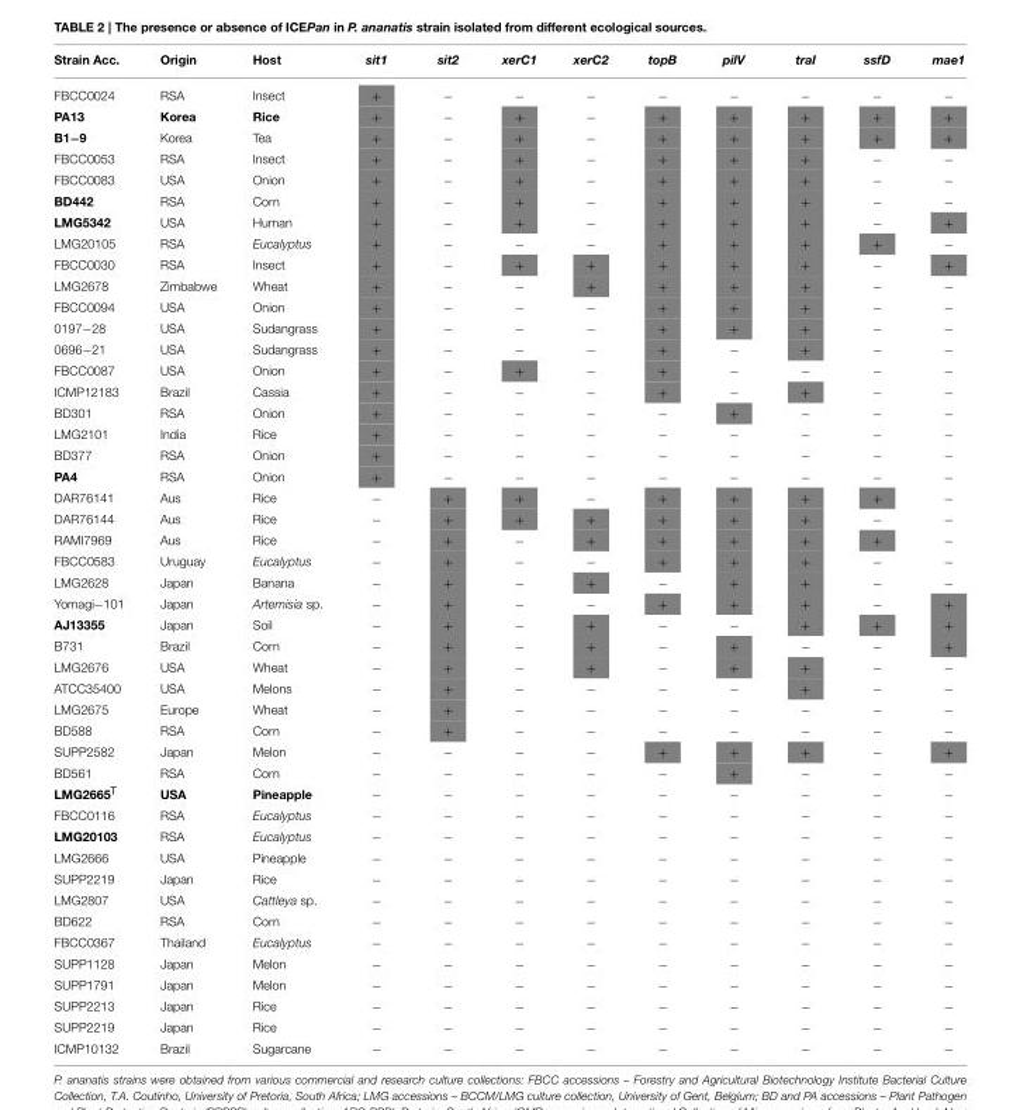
<table><thead><tr><td>Strain Acc.</td><td>Origin</td><td>Host</td><td>sit1</td><td>sit2</td><td>xerC1</td><td>xerC2</td><td>topB</td><td>pilV</td><td>traI</td><td>ssfD</td><td>mae1</td></tr></thead><tbody><tr><td>FBCC0024</td><td>RSA</td><td>Insect</td><td>+</td><td>−</td><td>−</td><td>−</td><td>−</td><td>−</td><td>−</td><td>−</td><td>−</td></tr><tr><td>PA13</td><td>Korea</td><td>Rice</td><td>+</td><td>−</td><td>+</td><td>−</td><td>+</td><td>+</td><td>+</td><td>+</td><td>+</td></tr><tr><td>B1−9</td><td>Korea</td><td>Tea</td><td>+</td><td>−</td><td>+</td><td>−</td><td>+</td><td>+</td><td>+</td><td>+</td><td>+</td></tr><tr><td>FBCC0053</td><td>RSA</td><td>Insect</td><td>+</td><td>−</td><td>+</td><td>−</td><td>+</td><td>+</td><td>+</td><td>−</td><td>−</td></tr><tr><td>FBCC0083</td><td>USA</td><td>Onion</td><td>+</td><td>−</td><td>+</td><td>−</td><td>+</td><td>+</td><td>+</td><td>−</td><td>−</td></tr><tr><td>BD442</td><td>RSA</td><td>Corn</td><td>+</td><td>−</td><td>+</td><td>−</td><td>+</td><td>+</td><td>+</td><td>−</td><td>−</td></tr><tr><td>LMG5342</td><td>USA</td><td>Human</td><td>+</td><td>−</td><td>+</td><td>−</td><td>+</td><td>+</td><td>+</td><td>−</td><td>+</td></tr><tr><td>LMG20105</td><td>RSA</td><td>Eucalyptus</td><td>+</td><td>−</td><td>−</td><td>−</td><td>+</td><td>+</td><td>+</td><td>+</td><td>−</td></tr><tr><td>FBCC0030</td><td>RSA</td><td>Insect</td><td>+</td><td>−</td><td>+</td><td>+</td><td>+</td><td>+</td><td>+</td><td>−</td><td>+</td></tr><tr><td>LMG2678</td><td>Zimbabwe</td><td>Wheat</td><td>+</td><td>−</td><td>−</td><td>+</td><td>+</td><td>+</td><td>+</td><td>−</td><td>−</td></tr><tr><td>FBCC0094</td><td>USA</td><td>Onion</td><td>+</td><td>−</td><td>−</td><td>−</td><td>+</td><td>+</td><td>+</td><td>−</td><td>−</td></tr><tr><td>0197−28</td><td>USA</td><td>Sudangrass</td><td>+</td><td>−</td><td>−</td><td>−</td><td>+</td><td>+</td><td>+</td><td>−</td><td>−</td></tr><tr><td>0696−21</td><td>USA</td><td>Sudangrass</td><td>+</td><td>−</td><td>−</td><td>−</td><td>+</td><td>−</td><td>+</td><td>−</td><td>−</td></tr><tr><td>FBCC0087</td><td>USA</td><td>Onion</td><td>+</td><td>−</td><td>+</td><td>−</td><td>+</td><td>−</td><td>−</td><td>−</td><td>−</td></tr><tr><td>ICMP12183</td><td>Brazil</td><td>Cassia</td><td>+</td><td>−</td><td>−</td><td>−</td><td>+</td><td>−</td><td>+</td><td>−</td><td>−</td></tr><tr><td>BD301</td><td>RSA</td><td>Onion</td><td>+</td><td>−</td><td>−</td><td>−</td><td>−</td><td>+</td><td>−</td><td>−</td><td>−</td></tr><tr><td>LMG2101</td><td>India</td><td>Rice</td><td>+</td><td>−</td><td>−</td><td>−</td><td>−</td><td>−</td><td>−</td><td>−</td><td>−</td></tr><tr><td>BD377</td><td>RSA</td><td>Onion</td><td>+</td><td>−</td><td>−</td><td>−</td><td>−</td><td>−</td><td>−</td><td>−</td><td>−</td></tr><tr><td>PA4</td><td>RSA</td><td>Onion</td><td>+</td><td>−</td><td>−</td><td>−</td><td>−</td><td>−</td><td>−</td><td>−</td><td>−</td></tr><tr><td>DAR76141</td><td>Aus</td><td>Rice</td><td>−</td><td>+</td><td>+</td><td>−</td><td>+</td><td>+</td><td>+</td><td>+</td><td>−</td></tr><tr><td>DAR76144</td><td>Aus</td><td>Rice</td><td>−</td><td>+</td><td>+</td><td>+</td><td>+</td><td>+</td><td>+</td><td>−</td><td>−</td></tr><tr><td>RAMI7969</td><td>Aus</td><td>Rice</td><td>−</td><td>+</td><td>−</td><td>+</td><td>+</td><td>+</td><td>+</td><td>+</td><td>−</td></tr><tr><td>FBCC0583</td><td>Uruguay</td><td>Eucalyptus</td><td>−</td><td>+</td><td>−</td><td>−</td><td>+</td><td>+</td><td>+</td><td>−</td><td>−</td></tr><tr><td>LMG2628</td><td>Japan</td><td>Banana</td><td>−</td><td>+</td><td>−</td><td>+</td><td>−</td><td>+</td><td>+</td><td>−</td><td>−</td></tr><tr><td>Yomagi−101</td><td>Japan</td><td>Artemisia sp.</td><td>−</td><td>+</td><td>−</td><td>−</td><td>+</td><td>+</td><td>+</td><td>−</td><td>+</td></tr><tr><td>AJ13355</td><td>Japan</td><td>Soil</td><td>−</td><td>+</td><td>−</td><td>+</td><td>−</td><td>−</td><td>+</td><td>+</td><td>+</td></tr><tr><td>B731</td><td>Brazil</td><td>Corn</td><td>−</td><td>+</td><td>−</td><td>+</td><td>−</td><td>+</td><td>−</td><td>−</td><td>+</td></tr><tr><td>LMG2676</td><td>USA</td><td>Wheat</td><td>−</td><td>+</td><td>−</td><td>+</td><td>−</td><td>+</td><td>+</td><td>−</td><td>−</td></tr><tr><td>ATCC35400</td><td>USA</td><td>Melons</td><td>−</td><td>+</td><td>−</td><td>−</td><td>−</td><td>−</td><td>+</td><td>−</td><td>−</td></tr><tr><td>LMG2675</td><td>Europe</td><td>Wheat</td><td>−</td><td>+</td><td>−</td><td>−</td><td>−</td><td>−</td><td>−</td><td>−</td><td>−</td></tr><tr><td>BD588</td><td>RSA</td><td>Corn</td><td>−</td><td>+</td><td>−</td><td>−</td><td>−</td><td>−</td><td>−</td><td>−</td><td>−</td></tr><tr><td>SUPP2582</td><td>Japan</td><td>Melon</td><td>−</td><td>−</td><td>−</td><td>−</td><td>+</td><td>+</td><td>+</td><td>−</td><td>+</td></tr><tr><td>BD561</td><td>RSA</td><td>Corn</td><td>−</td><td>−</td><td>−</td><td>−</td><td>−</td><td>+</td><td>−</td><td>−</td><td>−</td></tr><tr><td>LMG2665<sup>T</sup></td><td>USA</td><td>Pineapple</td><td>−</td><td>−</td><td>−</td><td>−</td><td>−</td><td>−</td><td>−</td><td>−</td><td>−</td></tr><tr><td>FBCC0116</td><td>RSA</td><td>Eucalyptus</td><td>−</td><td>−</td><td>−</td><td>−</td><td>−</td><td>−</td><td>−</td><td>−</td><td>−</td></tr><tr><td>LMG20103</td><td>RSA</td><td>Eucalyptus</td><td>−</td><td>−</td><td>−</td><td>−</td><td>−</td><td>−</td><td>−</td><td>−</td><td>−</td></tr><tr><td>LMG2666</td><td>USA</td><td>Pineapple</td><td>−</td><td>−</td><td>−</td><td>−</td><td>−</td><td>−</td><td>−</td><td>−</td><td>−</td></tr><tr><td>SUPP2219</td><td>Japan</td><td>Rice</td><td>−</td><td>−</td><td>−</td><td>−</td><td>−</td><td>−</td><td>−</td><td>−</td><td>−</td></tr><tr><td>LMG2807</td><td>USA</td><td>Cattleya sp.</td><td>−</td><td>−</td><td>−</td><td>−</td><td>−</td><td>−</td><td>−</td><td>−</td><td>−</td></tr><tr><td>BD622</td><td>RSA</td><td>Corn</td><td>−</td><td>−</td><td>−</td><td>−</td><td>−</td><td>−</td><td>−</td><td>−</td><td>−</td></tr><tr><td>FBCC0367</td><td>Thailand</td><td>Eucalyptus</td><td>−</td><td>−</td><td>−</td><td>−</td><td>−</td><td>−</td><td>−</td><td>−</td><td>−</td></tr><tr><td>SUPP1128</td><td>Japan</td><td>Melon</td><td>−</td><td>−</td><td>−</td><td>−</td><td>−</td><td>−</td><td>−</td><td>−</td><td>−</td></tr><tr><td>SUPP1791</td><td>Japan</td><td>Melon</td><td>−</td><td>−</td><td>−</td><td>−</td><td>−</td><td>−</td><td>−</td><td>−</td><td>−</td></tr><tr><td>SUPP2213</td><td>Japan</td><td>Rice</td><td>−</td><td>−</td><td>−</td><td>−</td><td>−</td><td>−</td><td>−</td><td>−</td><td>−</td></tr><tr><td>SUPP2219</td><td>Japan</td><td>Rice</td><td>−</td><td>−</td><td>−</td><td>−</td><td>−</td><td>−</td><td>−</td><td>−</td><td>−</td></tr><tr><td>ICMP10132</td><td>Brazil</td><td>Sugarcane</td><td>−</td><td>−</td><td>−</td><td>−</td><td>−</td><td>−</td><td>−</td><td>−</td><td>−</td></tr></tbody></table>